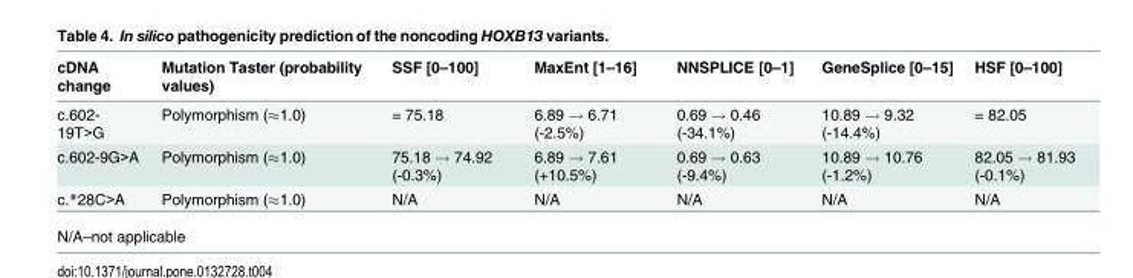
<table><thead><tr><td>cDNA change</td><td>Mutation Taster (probability values)</td><td>SSF [0–100]</td><td>MaxEnt [1–16]</td><td>NNSPLICE [0–1]</td><td>GeneSplice [0–15]</td><td>HSF [0–100]</td></tr></thead><tbody><tr><td>c.602- 19T&gt;G</td><td>Polymorphism (≈1.0)</td><td>= 75.18</td><td>6.89 → 6.71 (-2.5%)</td><td>0.69 → 0.46 (-34.1%)</td><td>10.89 → 9.32 (-14.4%)</td><td>= 82.05</td></tr><tr><td>c.602-9G&gt;A</td><td>Polymorphism (≈1.0)</td><td>75.18 → 74.92 (-0.3%)</td><td>6.89 → 7.61 (+10.5%)</td><td>0.69 → 0.63 (-9.4%)</td><td>10.89 → 10.76 (-1.2%)</td><td>82.05 → 81.93 (-0.1%)</td></tr><tr><td>c.*28C&gt;A</td><td>Polymorphism (≈1.0)</td><td>N/A</td><td>N/A</td><td>N/A</td><td>N/A</td><td>N/A</td></tr></tbody></table>